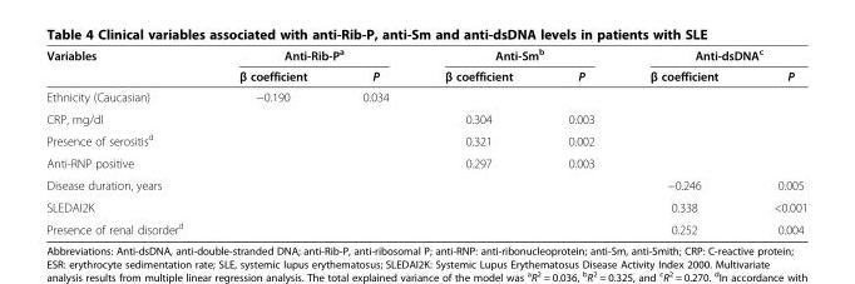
<table><thead><tr><td rowspan="2">Variables</td><td colspan="2">Anti-Rib-P<sup>a</sup></td><td colspan="2">Anti-Sm<sup>b</sup></td><td colspan="2">Anti-dsDNA<sup>c</sup></td></tr><tr><td>β coefficient</td><td>P</td><td>β coefficient</td><td>P</td><td>β coefficient</td><td>P</td></tr></thead><tbody><tr><td>Ethnicity (Caucasian)</td><td>−0.190</td><td>0.034</td><td></td><td></td><td></td><td></td></tr><tr><td>CRP, mg/dl</td><td></td><td></td><td>0.304</td><td>0.003</td><td></td><td></td></tr><tr><td>Presence of serositis<sup>d</sup></td><td></td><td></td><td>0.321</td><td>0.002</td><td></td><td></td></tr><tr><td>Anti-RNP positive</td><td></td><td></td><td>0.297</td><td>0.003</td><td></td><td></td></tr><tr><td>Disease duration, years</td><td></td><td></td><td></td><td></td><td>−0.246</td><td>0.005</td></tr><tr><td>SLEDAI2K</td><td></td><td></td><td></td><td></td><td>0.338</td><td>&lt;0.001</td></tr><tr><td>Presence of renal disorder<sup>d</sup></td><td></td><td></td><td></td><td></td><td>0.252</td><td>0.004</td></tr></tbody></table>